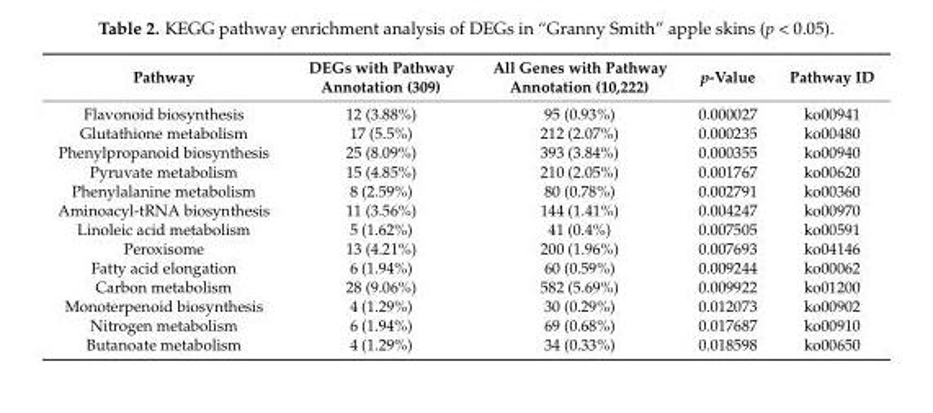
<table><thead><tr><td>Pathway</td><td>DEGs with Pathway Annotation (309)</td><td>All Genes with Pathway Annotation (10,222)</td><td>p-Value</td><td>Pathway ID</td></tr></thead><tbody><tr><td>Flavonoid biosynthesis</td><td>12 (3.88%)</td><td>95 (0.93%)</td><td>0.000027</td><td>ko00941</td></tr><tr><td>Glutathione metabolism</td><td>17 (5.5%)</td><td>212 (2.07%)</td><td>0.000235</td><td>ko00480</td></tr><tr><td>Phenylpropanoid biosynthesis</td><td>25 (8.09%)</td><td>393 (3.84%)</td><td>0.000355</td><td>ko00940</td></tr><tr><td>Pyruvate metabolism</td><td>15 (4.85%)</td><td>210 (2.05%)</td><td>0.001767</td><td>ko00620</td></tr><tr><td>Phenylalanine metabolism</td><td>8 (2.59%)</td><td>80 (0.78%)</td><td>0.002791</td><td>ko00360</td></tr><tr><td>Aminoacyl-tRNA biosynthesis</td><td>11 (3.56%)</td><td>144 (1.41%)</td><td>0.004247</td><td>ko00970</td></tr><tr><td>Linoleic acid metabolism</td><td>5 (1.62%)</td><td>41 (0.4%)</td><td>0.007505</td><td>ko00591</td></tr><tr><td>Peroxisome</td><td>13 (4.21%)</td><td>200 (1.96%)</td><td>0.007693</td><td>ko04146</td></tr><tr><td>Fatty acid elongation</td><td>6 (1.94%)</td><td>60 (0.59%)</td><td>0.009244</td><td>ko00062</td></tr><tr><td>Carbon metabolism</td><td>28 (9.06%)</td><td>582 (5.69%)</td><td>0.009922</td><td>ko01200</td></tr><tr><td>Monoterpenoid biosynthesis</td><td>4 (1.29%)</td><td>30 (0.29%)</td><td>0.012073</td><td>ko00902</td></tr><tr><td>Nitrogen metabolism</td><td>6 (1.94%)</td><td>69 (0.68%)</td><td>0.017687</td><td>ko00910</td></tr><tr><td>Butanoate metabolism</td><td>4 (1.29%)</td><td>34 (0.33%)</td><td>0.018598</td><td>ko00650</td></tr></tbody></table>